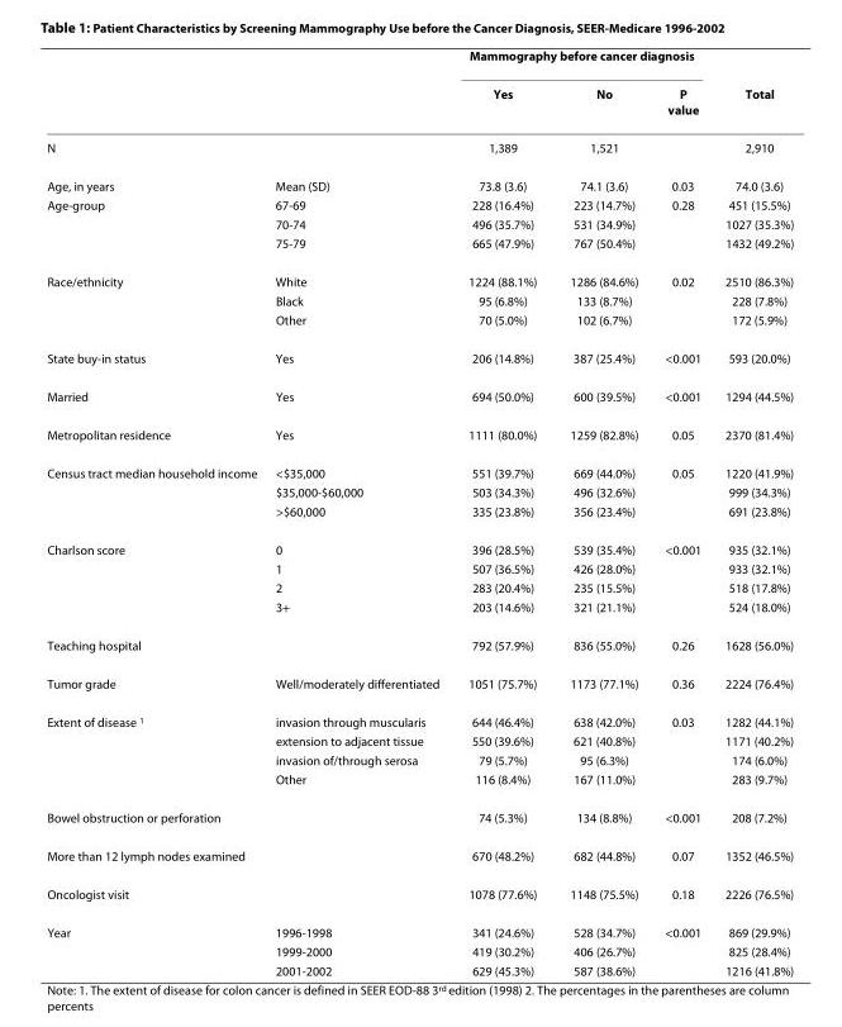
<table><thead><tr><td rowspan="2"></td><td rowspan="2"></td><td colspan="3">Mammography before cancer diagnosis</td><td rowspan="2">Total</td></tr><tr><td>Yes</td><td>No</td><td>P value</td></tr></thead><tbody><tr><td>N</td><td></td><td>1,389</td><td>1,521</td><td></td><td>2,910</td></tr><tr><td>Age, in years</td><td>Mean (SD)</td><td>73.8 (3.6)</td><td>74.1 (3.6)</td><td>0.03</td><td>74.0 (3.6)</td></tr><tr><td rowspan="3">Age-group</td><td>67-69</td><td>228 (16.4%)</td><td>223 (14.7%)</td><td>0.28</td><td>451 (15.5%)</td></tr><tr><td>70-74</td><td>496 (35.7%)</td><td>531 (34.9%)</td><td></td><td>1027 (35.3%)</td></tr><tr><td>75-79</td><td>665 (47.9%)</td><td>767 (50.4%)</td><td></td><td>1432 (49.2%)</td></tr><tr><td rowspan="3">Race/ethnicity</td><td>White</td><td>1224 (88.1%)</td><td>1286 (84.6%)</td><td>0.02</td><td>2510 (86.3%)</td></tr><tr><td>Black</td><td>95 (6.8%)</td><td>133 (8.7%)</td><td></td><td>228 (7.8%)</td></tr><tr><td>Other</td><td>70 (5.0%)</td><td>102 (6.7%)</td><td></td><td>172 (5.9%)</td></tr><tr><td>State buy-in status</td><td>Yes</td><td>206 (14.8%)</td><td>387 (25.4%)</td><td>&lt;0.001</td><td>593 (20.0%)</td></tr><tr><td>Married</td><td>Yes</td><td>694 (50.0%)</td><td>600 (39.5%)</td><td>&lt;0.001</td><td>1294 (44.5%)</td></tr><tr><td>Metropolitan residence</td><td>Yes</td><td>1111 (80.0%)</td><td>1259 (82.8%)</td><td>0.05</td><td>2370 (81.4%)</td></tr><tr><td rowspan="3">Census tract median household income</td><td>&lt;$35,000</td><td>551 (39.7%)</td><td>669 (44.0%)</td><td>0.05</td><td>1220 (41.9%)</td></tr><tr><td>$35,000-$60,000</td><td>503 (34.3%)</td><td>496 (32.6%)</td><td></td><td>999 (34.3%)</td></tr><tr><td>&gt;$60,000</td><td>335 (23.8%)</td><td>356 (23.4%)</td><td></td><td>691 (23.8%)</td></tr><tr><td rowspan="4">Charlson score</td><td>0</td><td>396 (28.5%)</td><td>539 (35.4%)</td><td>&lt;0.001</td><td>935 (32.1%)</td></tr><tr><td>1</td><td>507 (36.5%)</td><td>426 (28.0%)</td><td></td><td>933 (32.1%)</td></tr><tr><td>2</td><td>283 (20.4%)</td><td>235 (15.5%)</td><td></td><td>518 (17.8%)</td></tr><tr><td>3+</td><td>203 (14.6%)</td><td>321 (21.1%)</td><td></td><td>524 (18.0%)</td></tr><tr><td>Teaching hospital</td><td></td><td>792 (57.9%)</td><td>836 (55.0%)</td><td>0.26</td><td>1628 (56.0%)</td></tr><tr><td>Tumor grade</td><td>Well/moderately differentiated</td><td>1051 (75.7%)</td><td>1173 (77.1%)</td><td>0.36</td><td>2224 (76.4%)</td></tr><tr><td rowspan="4">Extent of disease <sup>1</sup></td><td>invasion through muscularis</td><td>644 (46.4%)</td><td>638 (42.0%)</td><td>0.03</td><td>1282 (44.1%)</td></tr><tr><td>extension to adjacent tissue</td><td>550 (39.6%)</td><td>621 (40.8%)</td><td></td><td>1171 (40.2%)</td></tr><tr><td>invasion of/through serosa</td><td>79 (5.7%)</td><td>95 (6.3%)</td><td></td><td>174 (6.0%)</td></tr><tr><td>Other</td><td>116 (8.4%)</td><td>167 (11.0%)</td><td></td><td>283 (9.7%)</td></tr><tr><td colspan="2">Bowel obstruction or perforation</td><td>74 (5.3%)</td><td>134 (8.8%)</td><td>&lt;0.001</td><td>208 (7.2%)</td></tr><tr><td colspan="2">More than 12 lymph nodes examined</td><td>670 (48.2%)</td><td>682 (44.8%)</td><td>0.07</td><td>1352 (46.5%)</td></tr><tr><td colspan="2">Oncologist visit</td><td>1078 (77.6%)</td><td>1148 (75.5%)</td><td>0.18</td><td>2226 (76.5%)</td></tr><tr><td rowspan="3">Year</td><td>1996-1998</td><td>341 (24.6%)</td><td>528 (34.7%)</td><td>&lt;0.001</td><td>869 (29.9%)</td></tr><tr><td>1999-2000</td><td>419 (30.2%)</td><td>406 (26.7%)</td><td></td><td>825 (28.4%)</td></tr><tr><td>2001-2002</td><td>629 (45.3%)</td><td>587 (38.6%)</td><td></td><td>1216 (41.8%)</td></tr></tbody></table>